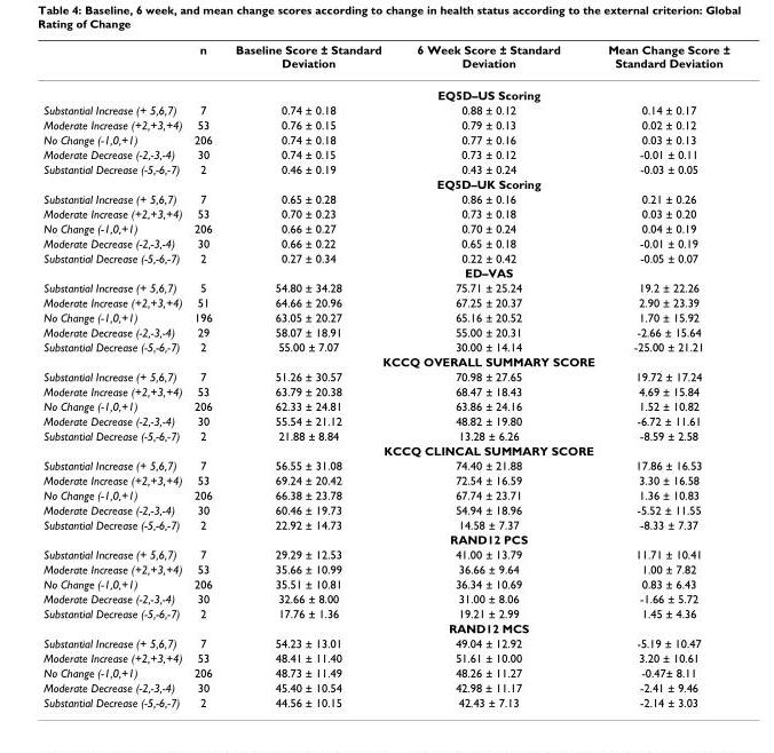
<table><thead><tr><td></td><td>n</td><td>Baseline Score ± Standard Deviation</td><td>6 Week Score ± Standard Deviation</td><td>Mean Change Score ± Standard Deviation</td></tr></thead><tbody><tr><td></td><td></td><td colspan="3">EQ5D–US Scoring</td></tr><tr><td>Substantial Increase (+ 5,6,7)</td><td>7</td><td>0.74 ± 0.18</td><td>0.88 ± 0.12</td><td>0.14 ± 0.17</td></tr><tr><td>Moderate Increase (+2,+3,+4)</td><td>53</td><td>0.76 ± 0.15</td><td>0.79 ± 0.13</td><td>0.02 ± 0.12</td></tr><tr><td>No Change (-1,0,+1)</td><td>206</td><td>0.74 ± 0.18</td><td>0.77 ± 0.16</td><td>0.03 ± 0.13</td></tr><tr><td>Moderate Decrease (-2,-3,-4)</td><td>30</td><td>0.74 ± 0.15</td><td>0.73 ± 0.12</td><td>-0.01 ± 0.11</td></tr><tr><td rowspan="2">Substantial Decrease (-5,-6,-7)</td><td>2</td><td>0.46 ± 0.19</td><td>0.43 ± 0.24</td><td>-0.03 ± 0.05</td></tr><tr><td></td><td colspan="3">EQ5D–UK Scoring</td></tr><tr><td>Substantial Increase (+ 5,6,7)</td><td>7</td><td>0.65 ± 0.28</td><td>0.86 ± 0.16</td><td>0.21 ± 0.26</td></tr><tr><td>Moderate Increase (+2,+3,+4)</td><td>53</td><td>0.70 ± 0.23</td><td>0.73 ± 0.18</td><td>0.03 ± 0.20</td></tr><tr><td>No Change (-1,0,+1)</td><td>206</td><td>0.66 ± 0.27</td><td>0.70 ± 0.24</td><td>0.04 ± 0.19</td></tr><tr><td>Moderate Decrease (-2,-3,-4)</td><td>30</td><td>0.66 ± 0.22</td><td>0.65 ± 0.18</td><td>-0.01 ± 0.19</td></tr><tr><td rowspan="2">Substantial Decrease (-5,-6,-7)</td><td>2</td><td>0.27 ± 0.34</td><td>0.22 ± 0.42</td><td>-0.05 ± 0.07</td></tr><tr><td></td><td colspan="3">ED–VAS</td></tr><tr><td>Substantial Increase (+ 5,6,7)</td><td>5</td><td>54.80 ± 34.28</td><td>75.71 ± 25.24</td><td>19.2 ± 22.26</td></tr><tr><td>Moderate Increase (+2,+3,+4)</td><td>51</td><td>64.66 ± 20.96</td><td>67.25 ± 20.37</td><td>2.90 ± 23.39</td></tr><tr><td>No Change (-1,0,+1)</td><td>196</td><td>63.05 ± 20.27</td><td>65.16 ± 20.52</td><td>1.70 ± 15.92</td></tr><tr><td>Moderate Decrease (-2,-3,-4)</td><td>29</td><td>58.07 ± 18.91</td><td>55.00 ± 20.31</td><td>-2.66 ± 15.64</td></tr><tr><td rowspan="2">Substantial Decrease (-5,-6,-7)</td><td>2</td><td>55.00 ± 7.07</td><td>30.00 ± 14.14</td><td>-25.00 ± 21.21</td></tr><tr><td></td><td colspan="3">KCCQ OVERALL SUMMARY SCORE</td></tr><tr><td>Substantial Increase (+ 5,6,7)</td><td>7</td><td>51.26 ± 30.57</td><td>70.98 ± 27.65</td><td>19.72 ± 17.24</td></tr><tr><td>Moderate Increase (+2,+3,+4)</td><td>53</td><td>63.79 ± 20.38</td><td>68.47 ± 18.43</td><td>4.69 ± 15.84</td></tr><tr><td>No Change (-1,0,+1)</td><td>206</td><td>62.33 ± 24.81</td><td>63.86 ± 24.16</td><td>1.52 ± 10.82</td></tr><tr><td>Moderate Decrease (-2,-3,-4)</td><td>30</td><td>55.54 ± 21.12</td><td>48.82 ± 19.80</td><td>-6.72 ± 11.61</td></tr><tr><td rowspan="2">Substantial Decrease (-5,-6,-7)</td><td>2</td><td>21.88 ± 8.84</td><td>13.28 ± 6.26</td><td>-8.59 ± 2.58</td></tr><tr><td></td><td colspan="3">KCCQ CLINCAL SUMMARY SCORE</td></tr><tr><td>Substantial Increase (+ 5,6,7)</td><td>7</td><td>56.55 ± 31.08</td><td>74.40 ± 21.88</td><td>17.86 ± 16.53</td></tr><tr><td>Moderate Increase (+2,+3,+4)</td><td>53</td><td>69.24 ± 20.42</td><td>72.54 ± 16.59</td><td>3.30 ± 16.58</td></tr><tr><td>No Change (-1,0,+1)</td><td>206</td><td>66.38 ± 23.78</td><td>67.74 ± 23.71</td><td>1.36 ± 10.83</td></tr><tr><td>Moderate Decrease (-2,-3,-4)</td><td>30</td><td>60.46 ± 19.73</td><td>54.94 ± 18.96</td><td>-5.52 ± 11.55</td></tr><tr><td rowspan="2">Substantial Decrease (-5,-6,-7)</td><td>2</td><td>22.92 ± 14.73</td><td>14.58 ± 7.37</td><td>-8.33 ± 7.37</td></tr><tr><td></td><td colspan="3">RAND12 PCS</td></tr><tr><td>Substantial Increase (+ 5,6,7)</td><td>7</td><td>29.29 ± 12.53</td><td>41.00 ± 13.79</td><td>11.71 ± 10.41</td></tr><tr><td>Moderate Increase (+2,+3,+4)</td><td>53</td><td>35.66 ± 10.99</td><td>36.66 ± 9.64</td><td>1.00 ± 7.82</td></tr><tr><td>No Change (-1,0,+1)</td><td>206</td><td>35.51 ± 10.81</td><td>36.34 ± 10.69</td><td>0.83 ± 6.43</td></tr><tr><td>Moderate Decrease (-2,-3,-4)</td><td>30</td><td>32.66 ± 8.00</td><td>31.00 ± 8.06</td><td>-1.66 ± 5.72</td></tr><tr><td rowspan="2">Substantial Decrease (-5,-6,-7)</td><td>2</td><td>17.76 ± 1.36</td><td>19.21 ± 2.99</td><td>1.45 ± 4.36</td></tr><tr><td></td><td colspan="3">RAND12 MCS</td></tr><tr><td>Substantial Increase (+ 5,6,7)</td><td>7</td><td>54.23 ± 13.01</td><td>49.04 ± 12.92</td><td>-5.19 ± 10.47</td></tr><tr><td>Moderate Increase (+2,+3,+4)</td><td>53</td><td>48.41 ± 11.40</td><td>51.61 ± 10.00</td><td>3.20 ± 10.61</td></tr><tr><td>No Change (-1,0,+1)</td><td>206</td><td>48.73 ± 11.49</td><td>48.26 ± 11.27</td><td>-0.47± 8.11</td></tr><tr><td>Moderate Decrease (-2,-3,-4)</td><td>30</td><td>45.40 ± 10.54</td><td>42.98 ± 11.17</td><td>-2.41 ± 9.46</td></tr><tr><td>Substantial Decrease (-5,-6,-7)</td><td>2</td><td>44.56 ± 10.15</td><td>42.43 ± 7.13</td><td>-2.14 ± 3.03</td></tr></tbody></table>